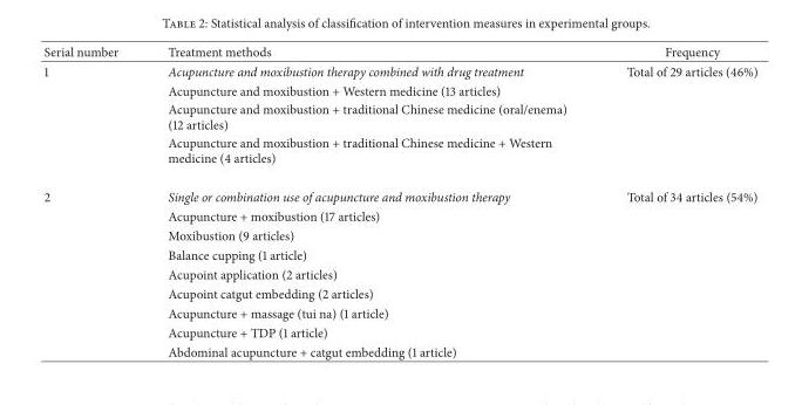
<table><thead><tr><td>Serial number</td><td>Treatment methods</td><td>Frequency</td></tr></thead><tbody><tr><td rowspan="4">1</td><td>Acupuncture and moxibustion therapy combined with drug treatment</td><td>Total of 29 articles (46%)</td></tr><tr><td>Acupuncture and moxibustion + Western medicine (13 articles)</td><td></td></tr><tr><td>Acupuncture and moxibustion + traditional Chinese medicine (oral/enema) (12 articles)</td><td></td></tr><tr><td>Acupuncture and moxibustion + traditional Chinese medicine + Western medicine (4 articles)</td><td></td></tr><tr><td rowspan="9">2</td><td>Single or combination use of acupuncture and moxibustion therapy</td><td>Total of 34 articles (54%)</td></tr><tr><td>Acupuncture + moxibustion (17 articles)</td><td></td></tr><tr><td>Moxibustion (9 articles)</td><td></td></tr><tr><td>Balance cupping (1 article)</td><td></td></tr><tr><td>Acupoint application (2 articles)</td><td></td></tr><tr><td>Acupoint catgut embedding (2 articles)</td><td></td></tr><tr><td>Acupuncture + massage (tui na) (1 article)</td><td></td></tr><tr><td>Acupuncture + TDP (1 article)</td><td></td></tr><tr><td>Abdominal acupuncture + catgut embedding (1 article)</td><td></td></tr></tbody></table>